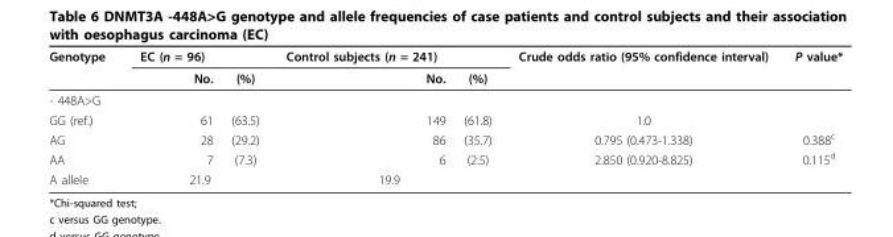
<table><thead><tr><td rowspan="2">Genotype</td><td rowspan="2">EC (n = 96) No.</td><td rowspan="2">(%)</td><td rowspan="2">Control subjects (n = 241) No.</td><td rowspan="2">(%)</td><td rowspan="2">Crude odds ratio (95% confidence interval)</td><td rowspan="2">P value*</td></tr><tr></tr></thead><tbody><tr><td colspan="7">- 448A&gt;G</td></tr><tr><td>GG (ref.)</td><td>61</td><td>(63.5)</td><td>149</td><td>(61.8)</td><td>1.0</td><td></td></tr><tr><td>AG</td><td>28</td><td>(29.2)</td><td>86</td><td>(35.7)</td><td>0.795 (0.473-1.338)</td><td>0.388<sup>c</sup></td></tr><tr><td>AA</td><td>7</td><td>(7.3)</td><td>6</td><td>(2.5)</td><td>2.850 (0.920-8.825)</td><td>0.115<sup>d</sup></td></tr><tr><td>A allele</td><td colspan="2">21.9</td><td colspan="2">19.9</td><td></td><td></td></tr></tbody></table>